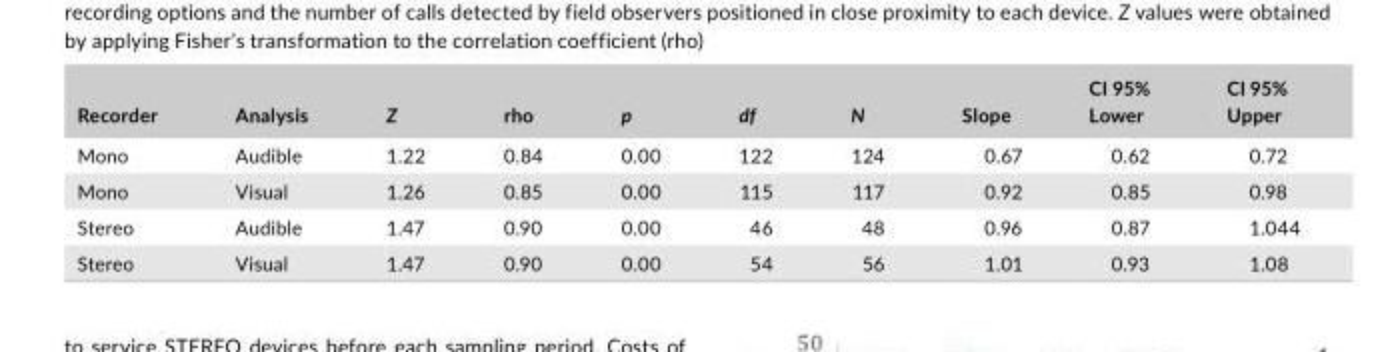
<table><thead><tr><td>Recorder</td><td>Analysis</td><td>Z</td><td>rho</td><td>p</td><td>df</td><td>N</td><td>Slope</td><td>CI95% Lower</td><td>CI95% Upper</td></tr></thead><tbody><tr><td>Mono</td><td>Audible</td><td>1.22</td><td>0.84</td><td>0.00</td><td>122</td><td>124</td><td>0.67</td><td>0.62</td><td>0.72</td></tr><tr><td>Mono</td><td>Visual</td><td>1.26</td><td>0.85</td><td>0.00</td><td>115</td><td>117</td><td>0.92</td><td>0.85</td><td>0.98</td></tr><tr><td>Stereo</td><td>Audible</td><td>1.47</td><td>0.90</td><td>0.00</td><td>46</td><td>48</td><td>0.96</td><td>0.87</td><td>1.044</td></tr><tr><td>Stereo</td><td>Visual</td><td>1.47</td><td>0.90</td><td>0.00</td><td>54</td><td>56</td><td>1.01</td><td>0.93</td><td>1.08</td></tr></tbody></table>